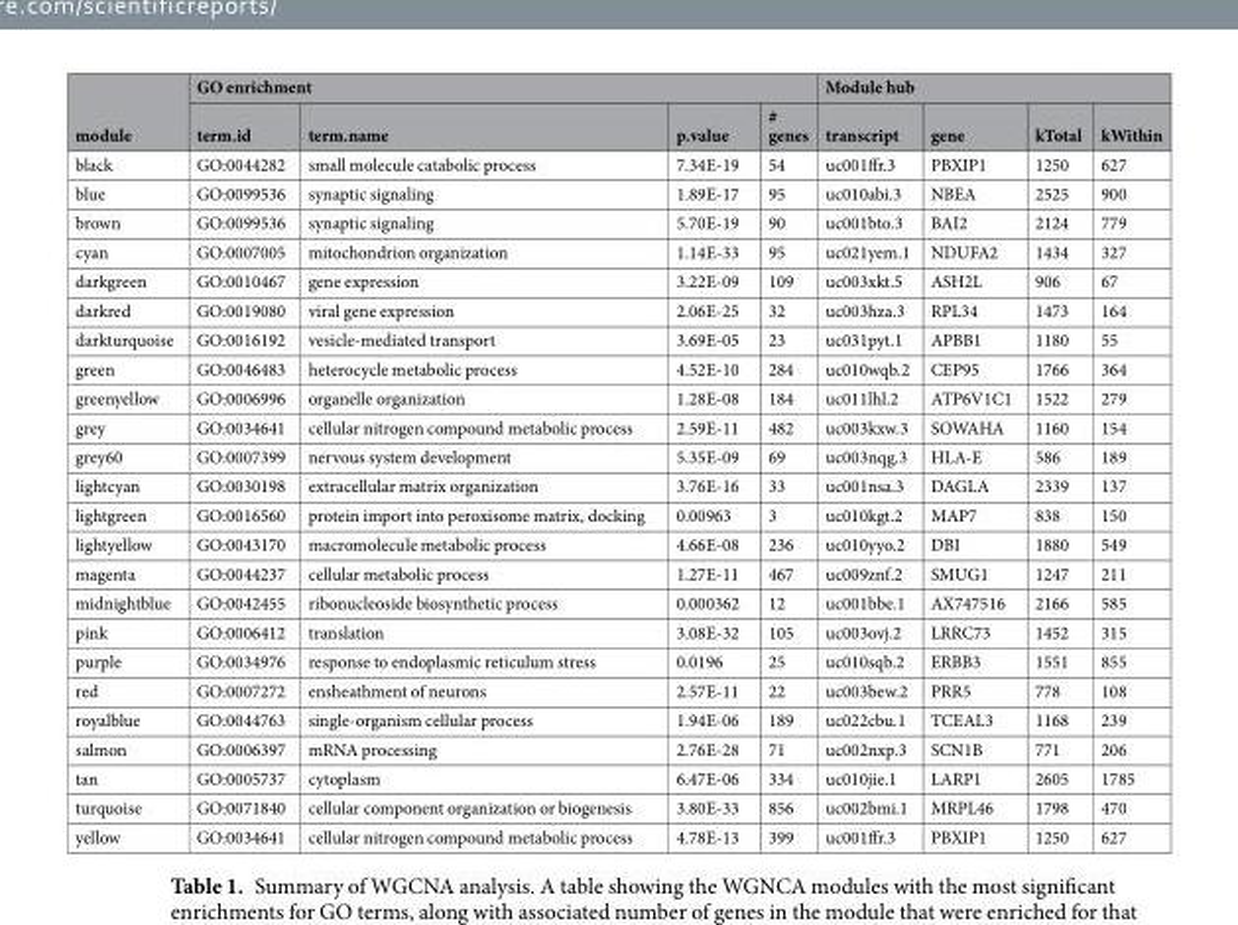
<table><thead><tr><td rowspan="2">module</td><td colspan="4">GO enrichment</td><td colspan="4">Module hub</td></tr><tr><td>term.id</td><td>term.name</td><td>p.value</td><td># genes</td><td>transcript</td><td>gene</td><td>kTotal</td><td>kWithin</td></tr></thead><tbody><tr><td>black</td><td>GO:0044282</td><td>small molecule catabolic process</td><td>7.34E-19</td><td>54</td><td>uc001ffr.3</td><td>PBXIP1</td><td>1250</td><td>627</td></tr><tr><td>blue</td><td>GO:0099536</td><td>synaptic signaling</td><td>1.89E-17</td><td>95</td><td>uc010abi.3</td><td>NBEA</td><td>2525</td><td>900</td></tr><tr><td>brown</td><td>GO:0099536</td><td>synaptic signaling</td><td>5.70E-19</td><td>90</td><td>uc001bto.3</td><td>BAI2</td><td>2124</td><td>779</td></tr><tr><td>cyan</td><td>GO:0007005</td><td>mitochondrion organization</td><td>1.14E-33</td><td>95</td><td>uc021yem.1</td><td>NDUFA2</td><td>1434</td><td>327</td></tr><tr><td>darkgreen</td><td>GO:0010467</td><td>gene expression</td><td>3.22E-09</td><td>109</td><td>uc003xkt.5</td><td>ASH2L</td><td>906</td><td>67</td></tr><tr><td>darkred</td><td>GO:0019080</td><td>viral gene expression</td><td>2.06E-25</td><td>32</td><td>uc003hza.3</td><td>RPL34</td><td>1473</td><td>164</td></tr><tr><td>darkturquoise</td><td>GO:0016192</td><td>vesicle-mediated transport</td><td>3.69E-05</td><td>23</td><td>uc031pyt.1</td><td>APBB1</td><td>1180</td><td>55</td></tr><tr><td>green</td><td>GO:0046483</td><td>heterocycle metabolic process</td><td>4.52E-10</td><td>284</td><td>uc010wqb.2</td><td>CEP95</td><td>1766</td><td>364</td></tr><tr><td>greenyellow</td><td>GO:0006996</td><td>organelle organization</td><td>1.28E-08</td><td>184</td><td>uc011lhl.2</td><td>ATP6V1C1</td><td>1522</td><td>279</td></tr><tr><td>grey</td><td>GO:0034641</td><td>cellular nitrogen compound metabolic process</td><td>2.59E-11</td><td>482</td><td>uc003kxw.3</td><td>SOWAHA</td><td>1160</td><td>154</td></tr><tr><td>grey60</td><td>GO:0007399</td><td>nervous system development</td><td>5.35E-09</td><td>69</td><td>uc003nqg.3</td><td>HLA-E</td><td>586</td><td>189</td></tr><tr><td>lightcyan</td><td>GO:0030198</td><td>extracellular matrix organization</td><td>3.76E-16</td><td>33</td><td>uc001nsa.3</td><td>DAGLA</td><td>2339</td><td>137</td></tr><tr><td>lightgreen</td><td>GO:0016560</td><td>protein import into peroxisome matrix, docking</td><td>0.00963</td><td>3</td><td>uc010kgt.2</td><td>MAP7</td><td>838</td><td>150</td></tr><tr><td>lightyellow</td><td>GO:0043170</td><td>macromolecule metabolic process</td><td>4.66E-08</td><td>236</td><td>uc010yyo.2</td><td>DBI</td><td>1880</td><td>549</td></tr><tr><td>magenta</td><td>GO:0044237</td><td>cellular metabolic process</td><td>1.27E-11</td><td>467</td><td>uc009znf.2</td><td>SMUG1</td><td>1247</td><td>211</td></tr><tr><td>midnightblue</td><td>GO:0042455</td><td>ribonucleoside biosynthetic process</td><td>0.000362</td><td>12</td><td>uc001bbe.1</td><td>AX747516</td><td>2166</td><td>585</td></tr><tr><td>pink</td><td>GO:0006412</td><td>translation</td><td>3.08E-32</td><td>105</td><td>uc003ovj.2</td><td>LRRC73</td><td>1452</td><td>315</td></tr><tr><td>purple</td><td>GO:0034976</td><td>response to endoplasmic reticulum stress</td><td>0.0196</td><td>25</td><td>uc010sqb.2</td><td>ERBB3</td><td>1551</td><td>855</td></tr><tr><td>red</td><td>GO:0007272</td><td>ensheathment of neurons</td><td>2.57E-11</td><td>22</td><td>uc003bew.2</td><td>PRR5</td><td>778</td><td>108</td></tr><tr><td>royalblue</td><td>GO:0044763</td><td>single-organism cellular process</td><td>1.94E-06</td><td>189</td><td>uc022cbu.1</td><td>TCEAL3</td><td>1168</td><td>239</td></tr><tr><td>salmon</td><td>GO:0006397</td><td>mRNA processing</td><td>2.76E-28</td><td>71</td><td>uc002nxp.3</td><td>SCN1B</td><td>771</td><td>206</td></tr><tr><td>tan</td><td>GO:0005737</td><td>cytoplasm</td><td>6.47E-06</td><td>334</td><td>uc010jie.1</td><td>LARP1</td><td>2605</td><td>1785</td></tr><tr><td>turquoise</td><td>GO:0071840</td><td>cellular component organization or biogenesis</td><td>3.80E-33</td><td>856</td><td>uc002bmi.1</td><td>MRPL46</td><td>1798</td><td>470</td></tr><tr><td>yellow</td><td>GO:0034641</td><td>cellular nitrogen compound metabolic process</td><td>4.78E-13</td><td>399</td><td>uc001ffr.3</td><td>PBXIP1</td><td>1250</td><td>627</td></tr></tbody></table>